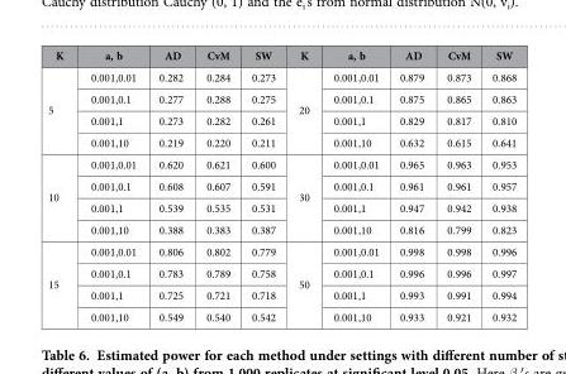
<table><thead><tr><td>K</td><td>a, b</td><td>AD</td><td>CvM</td><td>SW</td><td>K</td><td>a, b</td><td>AD</td><td>CvM</td><td>SW</td></tr></thead><tbody><tr><td rowspan="4">5</td><td>0.001,0.01</td><td>0.282</td><td>0.284</td><td>0.273</td><td rowspan="4">20</td><td>0.001,0.01</td><td>0.879</td><td>0.873</td><td>0.868</td></tr><tr><td>0.001,0.1</td><td>0.277</td><td>0.288</td><td>0.275</td><td>0.001,0.1</td><td>0.875</td><td>0.865</td><td>0.863</td></tr><tr><td>0.001,1</td><td>0.273</td><td>0.282</td><td>0.261</td><td>0.001,1</td><td>0.829</td><td>0.817</td><td>0.810</td></tr><tr><td>0.001,10</td><td>0.219</td><td>0.220</td><td>0.211</td><td>0.001,10</td><td>0.632</td><td>0.615</td><td>0.641</td></tr><tr><td rowspan="4">10</td><td>0.001,0.01</td><td>0.620</td><td>0.621</td><td>0.600</td><td rowspan="4">30</td><td>0.001,0.01</td><td>0.965</td><td>0.963</td><td>0.953</td></tr><tr><td>0.001,0.1</td><td>0.608</td><td>0.607</td><td>0.591</td><td>0.001,0.1</td><td>0.961</td><td>0.961</td><td>0.957</td></tr><tr><td>0.001,1</td><td>0.539</td><td>0.535</td><td>0.531</td><td>0.001,1</td><td>0.947</td><td>0.942</td><td>0.938</td></tr><tr><td>0.001,10</td><td>0.388</td><td>0.383</td><td>0.387</td><td>0.001,10</td><td>0.816</td><td>0.799</td><td>0.823</td></tr><tr><td rowspan="4">15</td><td>0.001,0.01</td><td>0.806</td><td>0.802</td><td>0.779</td><td rowspan="4">50</td><td>0.001,0.01</td><td>0.998</td><td>0.998</td><td>0.996</td></tr><tr><td>0.001,0.1</td><td>0.783</td><td>0.789</td><td>0.758</td><td>0.001,0.1</td><td>0.996</td><td>0.996</td><td>0.997</td></tr><tr><td>0.001,1</td><td>0.725</td><td>0.721</td><td>0.718</td><td>0.001,1</td><td>0.993</td><td>0.991</td><td>0.994</td></tr><tr><td>0.001,10</td><td>0.549</td><td>0.540</td><td>0.542</td><td>0.001,10</td><td>0.933</td><td>0.921</td><td>0.932</td></tr></tbody></table>